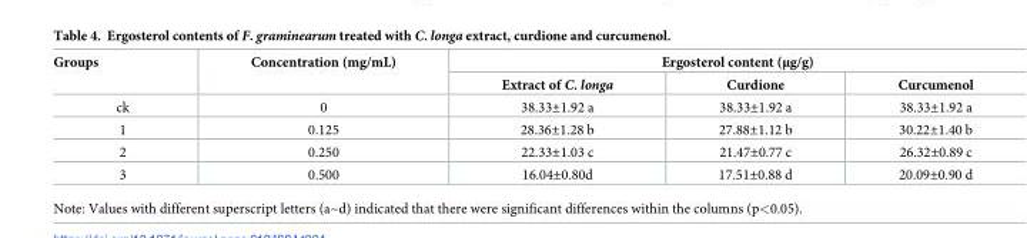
<table><thead><tr><td rowspan="2">Groups</td><td rowspan="2">Concentration (mg/mL)</td><td colspan="3">Ergosterol content (μg/g)</td></tr><tr><td>Extract of C. longa</td><td>Curdione</td><td>Curcumenol</td></tr></thead><tbody><tr><td>ck</td><td>0</td><td>38.33±1.92 a</td><td>38.33±1.92 a</td><td>38.33±1.92 a</td></tr><tr><td>1</td><td>0.125</td><td>28.36±1.28 b</td><td>27.88±1.12 b</td><td>30.22±1.40 b</td></tr><tr><td>2</td><td>0.250</td><td>22.33±1.03 c</td><td>21.47±0.77 c</td><td>26.32±0.89 c</td></tr><tr><td>3</td><td>0.500</td><td>16.04±0.80d</td><td>17.51±0.88 d</td><td>20.09±0.90 d</td></tr></tbody></table>